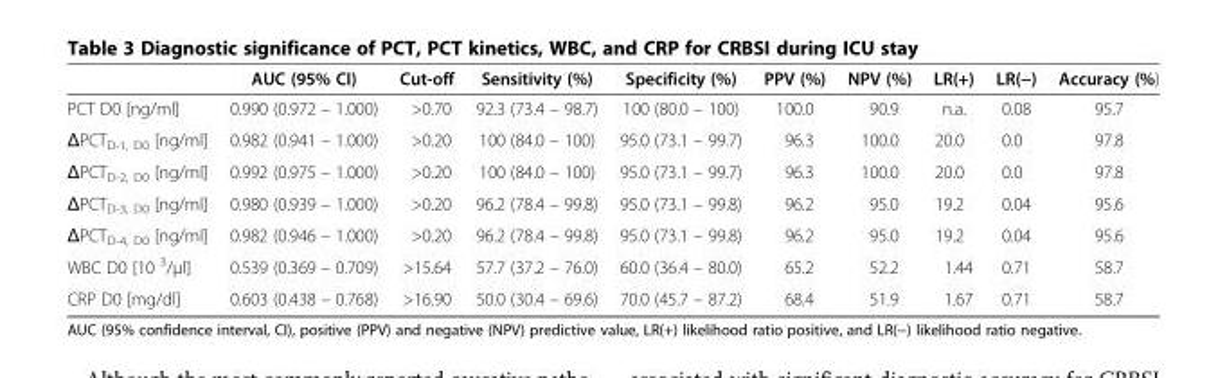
<table><thead><tr><td></td><td>AUC (95% CI)</td><td>Cut-off</td><td>Sensitivity (%)</td><td>Specificity (%)</td><td>PPV (%)</td><td>NPV (%)</td><td>LR(+)</td><td>LR(−)</td><td>Accuracy (%)</td></tr></thead><tbody><tr><td>PCT D0 [ng/ml]</td><td>0.990 (0.972 – 1.000)</td><td>&gt;0.70</td><td>92.3 (73.4 – 98.7)</td><td>100 (80.0 – 100)</td><td>100.0</td><td>90.9</td><td>n.a.</td><td>0.08</td><td>95.7</td></tr><tr><td>ΔPCT<sub>D-1, D0</sub> [ng/ml]</td><td>0.982 (0.941 – 1.000)</td><td>&gt;0.20</td><td>100 (84.0 – 100)</td><td>95.0 (73.1 – 99.7)</td><td>96.3</td><td>100.0</td><td>20.0</td><td>0.0</td><td>97.8</td></tr><tr><td>ΔPCT<sub>D-2, D0</sub> [ng/ml]</td><td>0.992 (0.975 – 1.000)</td><td>&gt;0.20</td><td>100 (84.0 – 100)</td><td>95.0 (73.1 – 99.7)</td><td>96.3</td><td>100.0</td><td>20.0</td><td>0.0</td><td>97.8</td></tr><tr><td>ΔPCT<sub>D-3, D0</sub> [ng/ml]</td><td>0.980 (0.939 – 1.000)</td><td>&gt;0.20</td><td>96.2 (78.4 – 99.8)</td><td>95.0 (73.1 – 99.8)</td><td>96.2</td><td>95.0</td><td>19.2</td><td>0.04</td><td>95.6</td></tr><tr><td>ΔPCT<sub>D-4, D0</sub> [ng/ml]</td><td>0.982 (0.946 – 1.000)</td><td>&gt;0.20</td><td>96.2 (78.4 – 99.8)</td><td>95.0 (73.1 – 99.8)</td><td>96.2</td><td>95.0</td><td>19.2</td><td>0.04</td><td>95.6</td></tr><tr><td>WBC D0 [10 <sup>3</sup>/μl]</td><td>0.539 (0.369 – 0.709)</td><td>&gt;15.64</td><td>57.7 (37.2 – 76.0)</td><td>60.0 (36.4 – 80.0)</td><td>65.2</td><td>52.2</td><td>1.44</td><td>0.71</td><td>58.7</td></tr><tr><td>CRP D0 [mg/dl]</td><td>0.603 (0.438 – 0.768)</td><td>&gt;16.90</td><td>50.0 (30.4 – 69.6)</td><td>70.0 (45.7 – 87.2)</td><td>68.4</td><td>51.9</td><td>1.67</td><td>0.71</td><td>58.7</td></tr></tbody></table>